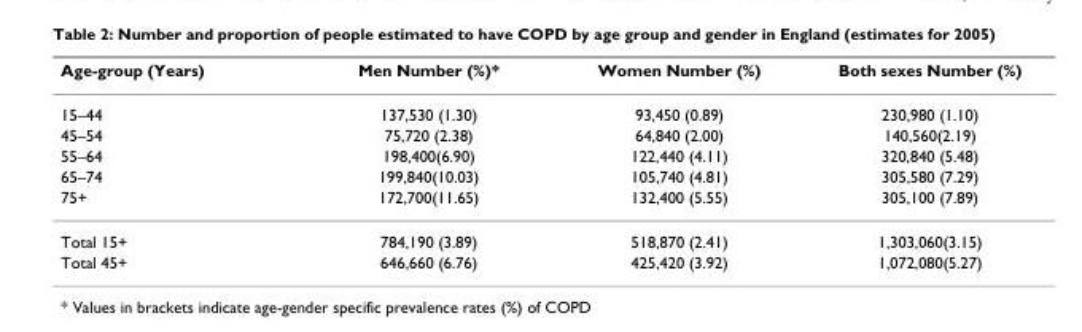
<table><thead><tr><td>Age-group (Years)</td><td>Men Number (%)*</td><td>Women Number (%)</td><td>Both sexes Number (%)</td></tr></thead><tbody><tr><td>15–44</td><td>137,530 (1.30)</td><td>93,450 (0.89)</td><td>230,980 (1.10)</td></tr><tr><td>45–54</td><td>75,720 (2.38)</td><td>64,840 (2.00)</td><td>140,560(2.19)</td></tr><tr><td>55–64</td><td>198,400(6.90)</td><td>122,440 (4.11)</td><td>320,840 (5.48)</td></tr><tr><td>65–74</td><td>199,840(10.03)</td><td>105,740 (4.81)</td><td>305,580 (7.29)</td></tr><tr><td>75+</td><td>172,700(11.65)</td><td>132,400 (5.55)</td><td>305,100 (7.89)</td></tr><tr><td>Total 15+</td><td>784,190 (3.89)</td><td>518,870 (2.41)</td><td>1,303,060(3.15)</td></tr><tr><td>Total 45+</td><td>646,660 (6.76)</td><td>425,420 (3.92)</td><td>1,072,080(5.27)</td></tr></tbody></table>